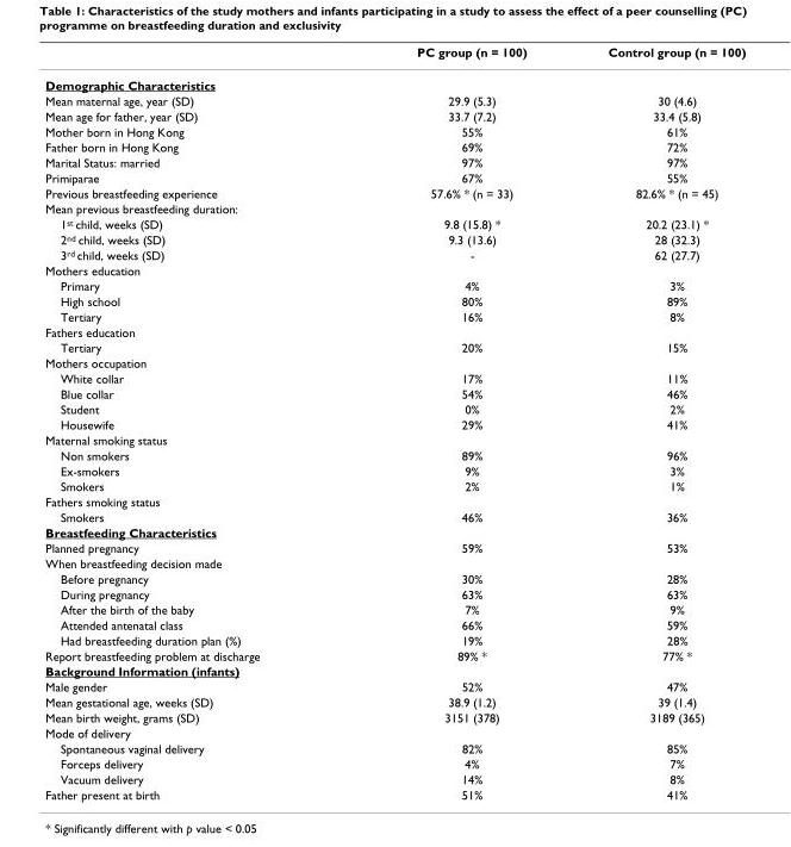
<table><thead><tr><td></td><td>PC group (n = 100)</td><td>Control group (n = 100)</td></tr></thead><tbody><tr><td colspan="3">Demographic Characteristics</td></tr><tr><td>Mean maternal age, year (SD)</td><td>29.9 (5.3)</td><td>30 (4.6)</td></tr><tr><td>Mean age for father, year (SD)</td><td>33.7 (7.2)</td><td>33.4 (5.8)</td></tr><tr><td>Mother born in Hong Kong</td><td>55%</td><td>61%</td></tr><tr><td>Father born in Hong Kong</td><td>69%</td><td>72%</td></tr><tr><td>Marital Status: married</td><td>97%</td><td>97%</td></tr><tr><td>Primiparae</td><td>67%</td><td>55%</td></tr><tr><td>Previous breastfeeding experience</td><td>57.6% * (n = 33)</td><td>82.6% * (n = 45)</td></tr><tr><td colspan="3">Mean previous breastfeeding duration:</td></tr><tr><td>1<sup>st</sup> child, weeks (SD)</td><td>9.8 (15.8) *</td><td>20.2 (23.1) *</td></tr><tr><td>2<sup>nd</sup> child, weeks (SD)</td><td>9.3 (13.6)</td><td>28 (32.3)</td></tr><tr><td>3<sup>rd</sup> child, weeks (SD)</td><td>-</td><td>62 (27.7)</td></tr><tr><td colspan="3">Mothers education</td></tr><tr><td>Primary</td><td>4%</td><td>3%</td></tr><tr><td>High school</td><td>80%</td><td>89%</td></tr><tr><td>Tertiary</td><td>16%</td><td>8%</td></tr><tr><td colspan="3">Fathers education</td></tr><tr><td>Tertiary</td><td>20%</td><td>15%</td></tr><tr><td colspan="3">Mothers occupation</td></tr><tr><td>White collar</td><td>17%</td><td>11%</td></tr><tr><td>Blue collar</td><td>54%</td><td>46%</td></tr><tr><td>Student</td><td>0%</td><td>2%</td></tr><tr><td>Housewife</td><td>29%</td><td>41%</td></tr><tr><td colspan="3">Maternal smoking status</td></tr><tr><td>Non smokers</td><td>89%</td><td>96%</td></tr><tr><td>Ex-smokers</td><td>9%</td><td>3%</td></tr><tr><td>Smokers</td><td>2%</td><td>1%</td></tr><tr><td colspan="3">Fathers smoking status</td></tr><tr><td>Smokers</td><td>46%</td><td>36%</td></tr><tr><td colspan="3">Breastfeeding Characteristics</td></tr><tr><td>Planned pregnancy</td><td>59%</td><td>53%</td></tr><tr><td colspan="3">When breastfeeding decision made</td></tr><tr><td>Before pregnancy</td><td>30%</td><td>28%</td></tr><tr><td>During pregnancy</td><td>63%</td><td>63%</td></tr><tr><td>After the birth of the baby</td><td>7%</td><td>9%</td></tr><tr><td>Attended antenatal class</td><td>66%</td><td>59%</td></tr><tr><td>Had breastfeeding duration plan (%)</td><td>19%</td><td>28%</td></tr><tr><td>Report breastfeeding problem at discharge</td><td>89% *</td><td>77% *</td></tr><tr><td colspan="3">Background Information (infants)</td></tr><tr><td>Male gender</td><td>52%</td><td>47%</td></tr><tr><td>Mean gestational age, weeks (SD)</td><td>38.9 (1.2)</td><td>39 (1.4)</td></tr><tr><td>Mean birth weight, grams (SD)</td><td>3151 (378)</td><td>3189 (365)</td></tr><tr><td colspan="3">Mode of delivery</td></tr><tr><td>Spontaneous vaginal delivery</td><td>82%</td><td>85%</td></tr><tr><td>Forceps delivery</td><td>4%</td><td>7%</td></tr><tr><td>Vacuum delivery</td><td>14%</td><td>8%</td></tr><tr><td>Father present at birth</td><td>51%</td><td>41%</td></tr></tbody></table>